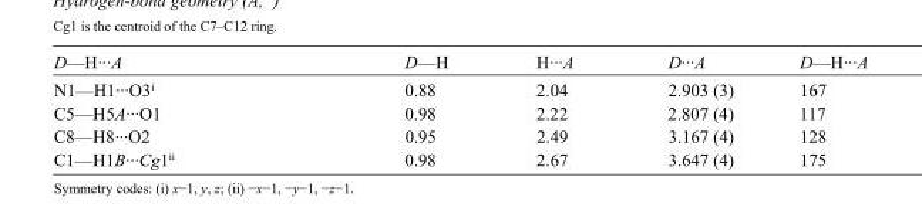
<table><tbody><tr><td>D—H···A</td><td>D—H</td><td>H···A</td><td>D···A</td><td>D—H···A</td></tr><tr><td>N1—H1···O3<sup>i</sup></td><td>0.88</td><td>2.04</td><td>2.903 (3)</td><td>167</td></tr><tr><td>C5—H5A···O1</td><td>0.98</td><td>2.22</td><td>2.807 (4)</td><td>117</td></tr><tr><td>C8—H8···O2</td><td>0.95</td><td>2.49</td><td>3.167 (4)</td><td>128</td></tr><tr><td>C1—H1B···Cg1<sup>ii</sup></td><td>0.98</td><td>2.67</td><td>3.647 (4)</td><td>175</td></tr></tbody></table>